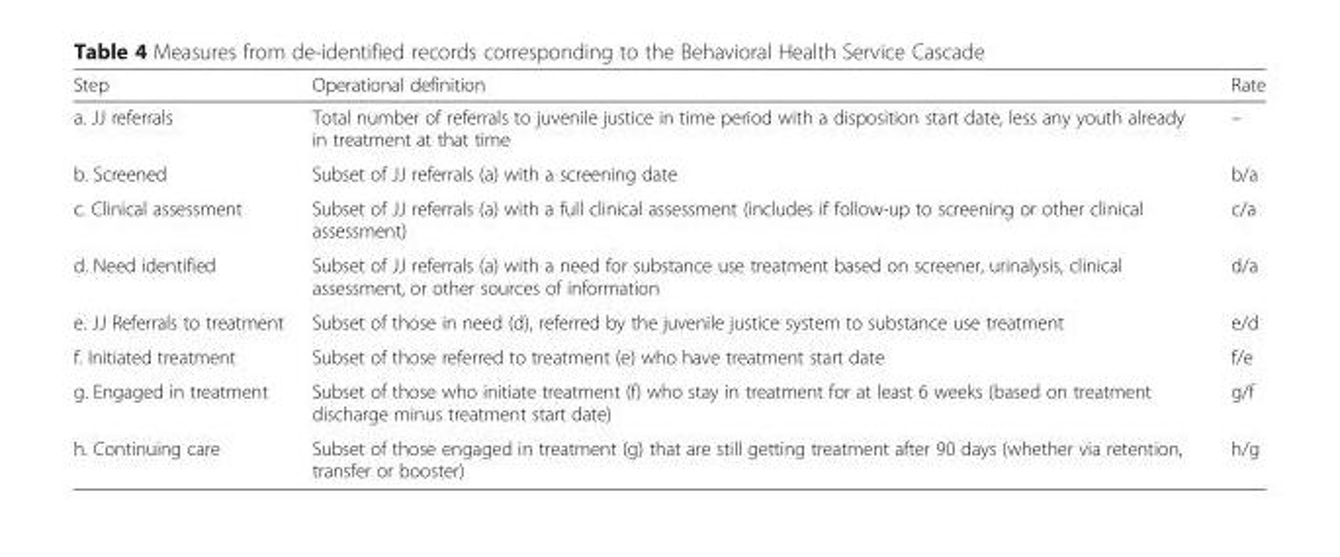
<table><thead><tr><td>Step</td><td>Operational definition</td><td>Rate</td></tr></thead><tbody><tr><td>a. JJ referrals</td><td>Total number of referrals to juvenile justice in time period with a disposition start date, less any youth already in treatment at that time</td><td>–</td></tr><tr><td>b. Screened</td><td>Subset of JJ referrals (a) with a screening date</td><td>b/a</td></tr><tr><td>c. Clinical assessment</td><td>Subset of JJ referrals (a) with a full clinical assessment (includes if follow-up to screening or other clinical assessment)</td><td>c/a</td></tr><tr><td>d. Need identified</td><td>Subset of JJ referrals (a) with a need for substance use treatment based on screener, urinalysis, clinical assessment, or other sources of information</td><td>d/a</td></tr><tr><td>e. JJ Referrals to treatment</td><td>Subset of those in need (d), referred by the juvenile justice system to substance use treatment</td><td>e/d</td></tr><tr><td>f. Initiated treatment</td><td>Subset of those referred to treatment (e) who have treatment start date</td><td>f/e</td></tr><tr><td>g. Engaged in treatment</td><td>Subset of those who initiate treatment (f) who stay in treatment for at least 6 weeks (based on treatment discharge minus treatment start date)</td><td>g/f</td></tr><tr><td>h. Continuing care</td><td>Subset of those engaged in treatment (g) that are still getting treatment after 90 days (whether via retention, transfer or booster)</td><td>h/g</td></tr></tbody></table>